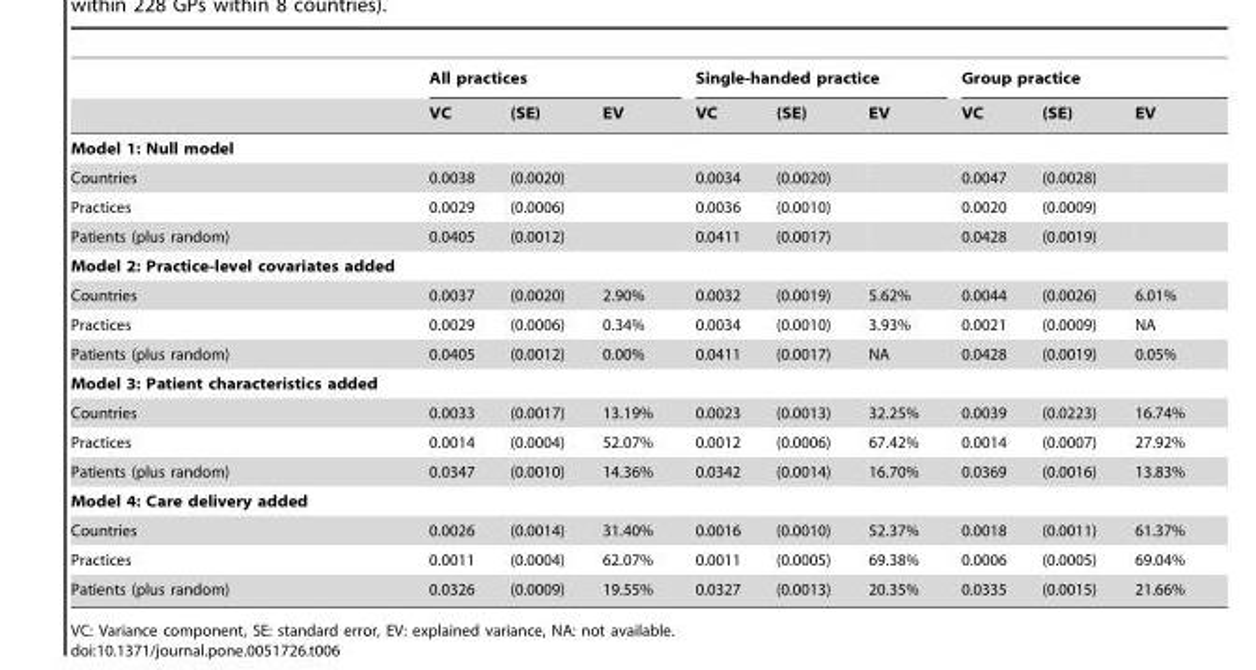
<table><thead><tr><td rowspan="2"></td><td colspan="3">All practices</td><td colspan="3">Single-handed practice</td><td colspan="3">Group practice</td></tr><tr><td>VC</td><td>(SE)</td><td>EV</td><td>VC</td><td>(SE)</td><td>EV</td><td>VC</td><td>(SE)</td><td>EV</td></tr></thead><tbody><tr><td colspan="10">Model 1: Null model</td></tr><tr><td>Countries</td><td>0.0038</td><td>(0.0020)</td><td></td><td>0.0034</td><td>(0.0020)</td><td></td><td>0.0047</td><td>(0.0028)</td><td></td></tr><tr><td>Practices</td><td>0.0029</td><td>(0.0006)</td><td></td><td>0.0036</td><td>(0.0010)</td><td></td><td>0.0020</td><td>(0.0009)</td><td></td></tr><tr><td>Patients (plus random)</td><td>0.0405</td><td>(0.0012)</td><td></td><td>0.0411</td><td>(0.0017)</td><td></td><td>0.0428</td><td>(0.0019)</td><td></td></tr><tr><td colspan="10">Model 2: Practice-level covariates added</td></tr><tr><td>Countries</td><td>0.0037</td><td>(0.0020)</td><td>2.90%</td><td>0.0032</td><td>(0.0019)</td><td>5.62%</td><td>0.0044</td><td>(0.0026)</td><td>6.01%</td></tr><tr><td>Practices</td><td>0.0029</td><td>(0.0006)</td><td>0.34%</td><td>0.0034</td><td>(0.0010)</td><td>3.93%</td><td>0.0021</td><td>(0.0009)</td><td>NA</td></tr><tr><td>Patients (plus random)</td><td>0.0405</td><td>(0.0012)</td><td>0.00%</td><td>0.0411</td><td>(0.0017)</td><td>NA</td><td>0.0428</td><td>(0.0019)</td><td>0.05%</td></tr><tr><td colspan="10">Model 3: Patient characteristics added</td></tr><tr><td>Countries</td><td>0.0033</td><td>(0.0017)</td><td>13.19%</td><td>0.0023</td><td>(0.0013)</td><td>32.25%</td><td>0.0039</td><td>(0.0223)</td><td>16.74%</td></tr><tr><td>Practices</td><td>0.0014</td><td>(0.0004)</td><td>52.07%</td><td>0.0012</td><td>(0.0006)</td><td>67.42%</td><td>0.0014</td><td>(0.0007)</td><td>27.92%</td></tr><tr><td>Patients (plus random)</td><td>0.0347</td><td>(0.0010)</td><td>14.36%</td><td>0.0342</td><td>(0.0014)</td><td>16.70%</td><td>0.0369</td><td>(0.0016)</td><td>13.83%</td></tr><tr><td colspan="10">Model 4: Care delivery added</td></tr><tr><td>Countries</td><td>0.0026</td><td>(0.0014)</td><td>31.40%</td><td>0.0016</td><td>(0.0010)</td><td>52.37%</td><td>0.0018</td><td>(0.0011)</td><td>61.37%</td></tr><tr><td>Practices</td><td>0.0011</td><td>(0.0004)</td><td>62.07%</td><td>0.0011</td><td>(0.0005)</td><td>69.38%</td><td>0.0006</td><td>(0.0005)</td><td>69.04%</td></tr><tr><td>Patients (plus random)</td><td>0.0326</td><td>(0.0009)</td><td>19.55%</td><td>0.0327</td><td>(0.0013)</td><td>20.35%</td><td>0.0335</td><td>(0.0015)</td><td>21.66%</td></tr></tbody></table>